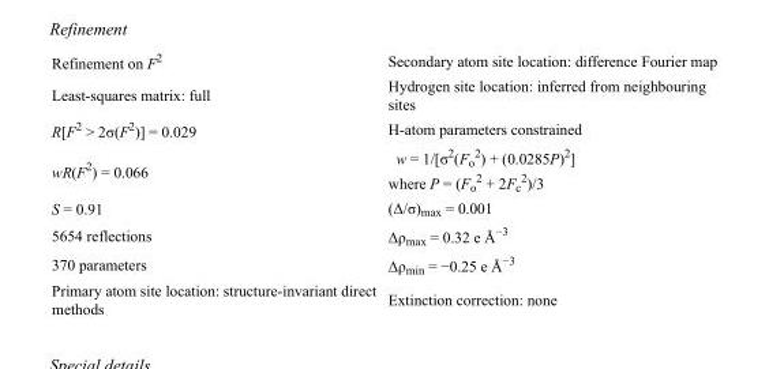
<table><tbody><tr><td>Refinement on F<sup>2</sup></td><td>Secondary atom site location: difference Fourier map</td></tr><tr><td>Least-squares matrix: full</td><td>Hydrogen site location: inferred from neighbouring sites</td></tr><tr><td>R[F<sup>2</sup> &gt; 2σ(F<sup>2</sup>)] = 0.029</td><td>H-atom parameters constrained</td></tr><tr><td>wR(F<sup>2</sup>) = 0.066</td><td>w = 1/[σ<sup>2</sup>(F<sub>o</sub> <sup>2</sup>) + (0.0285P)<sup>2</sup>] where P = (F<sub>o</sub> <sup>2</sup> + 2F<sub>c</sub> <sup>2</sup>)/3</td></tr><tr><td>S = 0.91</td><td>(Δ/σ)<sub>max</sub> = 0.001</td></tr><tr><td>5654 reflections</td><td>Δρ<sub>max</sub> = 0.32 e Å<sup>−3</sup></td></tr><tr><td>370 parameters</td><td>Δρ<sub>min</sub> = −0.25 e Å<sup>−3</sup></td></tr><tr><td>Primary atom site location: structure-invariant direct methods</td><td>Extinction correction: none</td></tr></tbody></table>